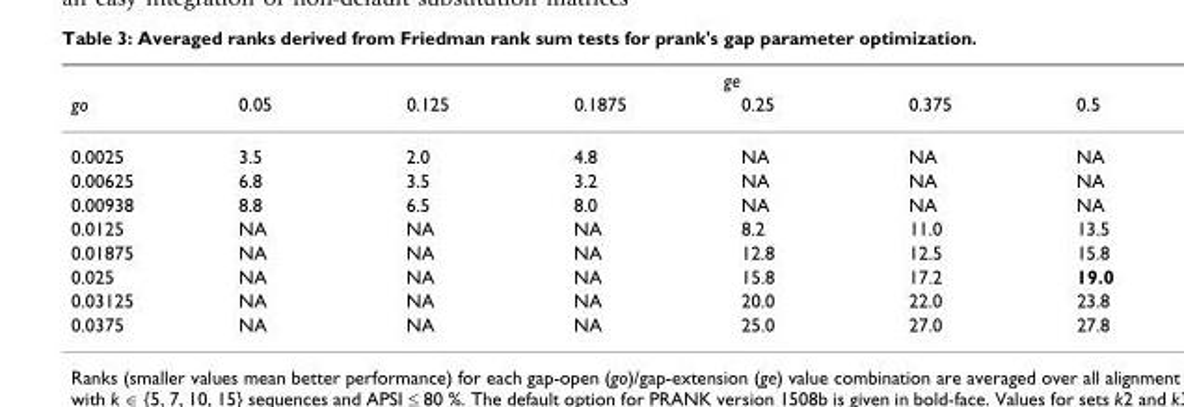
<table><thead><tr><td rowspan="2">go</td><td colspan="6">ge</td></tr><tr><td>0.05</td><td>0.125</td><td>0.1875</td><td>0.25</td><td>0.375</td><td>0.5</td></tr></thead><tbody><tr><td>0.0025</td><td>3.5</td><td>2.0</td><td>4.8</td><td>NA</td><td>NA</td><td>NA</td></tr><tr><td>0.00625</td><td>6.8</td><td>3.5</td><td>3.2</td><td>NA</td><td>NA</td><td>NA</td></tr><tr><td>0.00938</td><td>8.8</td><td>6.5</td><td>8.0</td><td>NA</td><td>NA</td><td>NA</td></tr><tr><td>0.0125</td><td>NA</td><td>NA</td><td>NA</td><td>8.2</td><td>11.0</td><td>13.5</td></tr><tr><td>0.01875</td><td>NA</td><td>NA</td><td>NA</td><td>12.8</td><td>12.5</td><td>15.8</td></tr><tr><td>0.025</td><td>NA</td><td>NA</td><td>NA</td><td>15.8</td><td>17.2</td><td>19.0</td></tr><tr><td>0.03125</td><td>NA</td><td>NA</td><td>NA</td><td>20.0</td><td>22.0</td><td>23.8</td></tr><tr><td>0.0375</td><td>NA</td><td>NA</td><td>NA</td><td>25.0</td><td>27.0</td><td>27.8</td></tr></tbody></table>